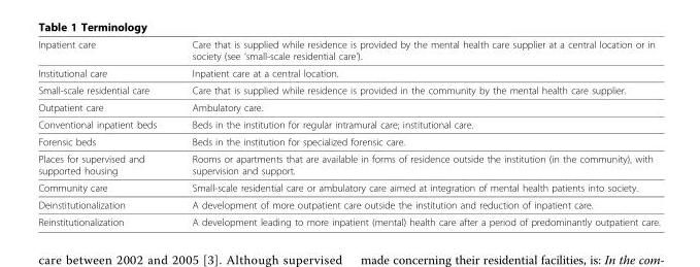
<table><thead><tr><td>Inpatient care</td><td>Care that is supplied while residence is provided by the mental health care supplier at a central location or in society (see ‘small-scale residential care’).</td></tr></thead><tbody><tr><td>Institutional care</td><td>Inpatient care at a central location.</td></tr><tr><td>Small-scale residential care</td><td>Care that is supplied while residence is provided in the community by the mental health care supplier.</td></tr><tr><td>Outpatient care</td><td>Ambulatory care.</td></tr><tr><td>Conventional inpatient beds</td><td>Beds in the institution for regular intramural care; institutional care.</td></tr><tr><td>Forensic beds</td><td>Beds in the institution for specialized forensic care.</td></tr><tr><td>Places for supervised and supported housing</td><td>Rooms or apartments that are available in forms of residence outside the institution (in the community), with supervision and support.</td></tr><tr><td>Community care</td><td>Small-scale residential care or ambulatory care aimed at integration of mental health patients into society.</td></tr><tr><td>Deinstitutionalization</td><td>A development of more outpatient care outside the institution and reduction of inpatient care.</td></tr><tr><td>Reinstitutionalization</td><td>A development leading to more inpatient (mental) health care after a period of predominantly outpatient care.</td></tr></tbody></table>